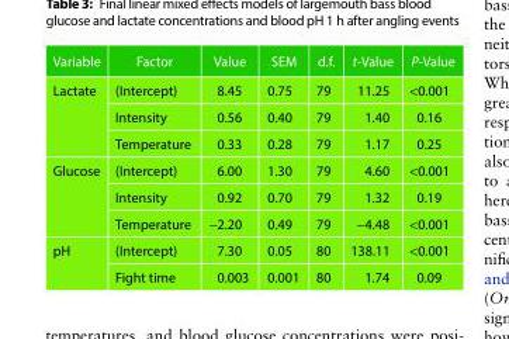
<table><thead><tr><td>Variable</td><td>Factor</td><td>Value</td><td>SEM</td><td>d.f.</td><td>t-Value</td><td>P-Value</td></tr></thead><tbody><tr><td rowspan="3">Lactate</td><td>(Intercept)</td><td>8.45</td><td>0.75</td><td>79</td><td>11.25</td><td>&lt;0.001</td></tr><tr><td>Intensity</td><td>0.56</td><td>0.40</td><td>79</td><td>1.40</td><td>0.16</td></tr><tr><td>Temperature</td><td>0.33</td><td>0.28</td><td>79</td><td>1.17</td><td>0.25</td></tr><tr><td rowspan="3">Glucose</td><td>(Intercept)</td><td>6.00</td><td>1.30</td><td>79</td><td>4.60</td><td>&lt;0.001</td></tr><tr><td>Intensity</td><td>0.92</td><td>0.70</td><td>79</td><td>1.32</td><td>0.19</td></tr><tr><td>Temperature</td><td>−2.20</td><td>0.49</td><td>79</td><td>−4.48</td><td>&lt;0.001</td></tr><tr><td rowspan="2">pH</td><td>(Intercept)</td><td>7.30</td><td>0.05</td><td>80</td><td>138.11</td><td>&lt;0.001</td></tr><tr><td>Fight time</td><td>0.003</td><td>0.001</td><td>80</td><td>1.74</td><td>0.09</td></tr></tbody></table>